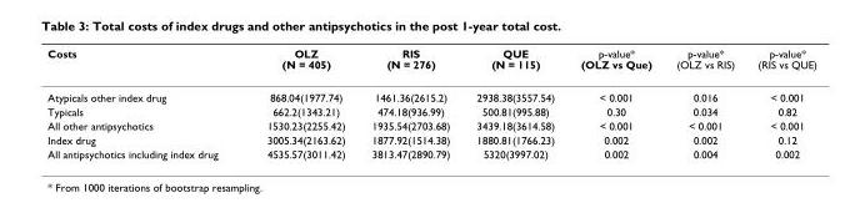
<table><thead><tr><td>Costs</td><td>OLZ (N = 405)</td><td>RIS (N = 276)</td><td>QUE (N = 115)</td><td>p-value* (OLZ vs Que)</td><td>p-value* (OLZ vs RIS)</td><td>p-value* (RIS vs QUE)</td></tr></thead><tbody><tr><td>Atypicals other index drug</td><td>868.04(1977.74)</td><td>1461.36(2615.2)</td><td>2938.38(3557.54)</td><td>&lt; 0.001</td><td>0.016</td><td>&lt; 0.001</td></tr><tr><td>Typicals</td><td>662.2(1343.21)</td><td>474.18(936.99)</td><td>500.81(995.88)</td><td>0.30</td><td>0.034</td><td>0.82</td></tr><tr><td>All other antipsychotics</td><td>1530.23(2255.42)</td><td>1935.54(2703.68)</td><td>3439.18(3614.58)</td><td>&lt; 0.001</td><td>&lt; 0.001</td><td>&lt; 0.001</td></tr><tr><td>Index drug</td><td>3005.34(2163.62)</td><td>1877.92(1514.38)</td><td>1880.81(1766.23)</td><td>0.002</td><td>0.002</td><td>0.12</td></tr><tr><td>All antipsychotics including index drug</td><td>4535.57(3011.42)</td><td>3813.47(2890.79)</td><td>5320(3997.02)</td><td>0.002</td><td>0.004</td><td>0.002</td></tr></tbody></table>